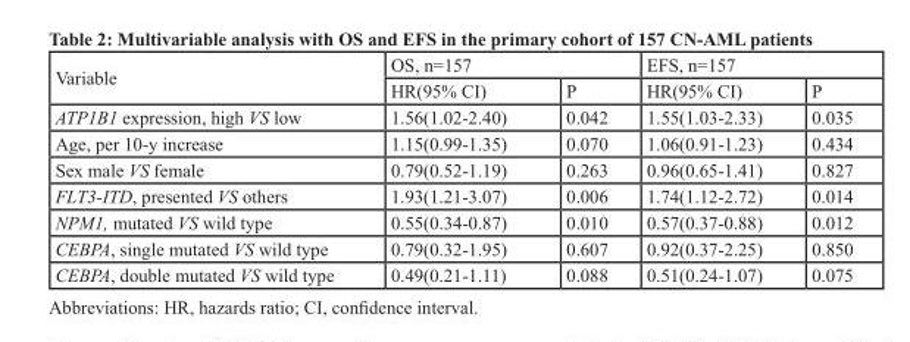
<table><thead><tr><td rowspan="2">Variable</td><td colspan="2">OS, n=157</td><td colspan="2">EFS, n=157</td></tr><tr><td>HR(95% CI)</td><td>P</td><td>HR(95% CI)</td><td>P</td></tr></thead><tbody><tr><td>ATP1B1 expression, high VS low</td><td>1.56(1.02‑2.40)</td><td>0.042</td><td>1.55(1.03‑2.33)</td><td>0.035</td></tr><tr><td>Age, per 10-y increase</td><td>1.15(0.99‑1.35)</td><td>0.070</td><td>1.06(0.91‑1.23)</td><td>0.434</td></tr><tr><td>Sex male VS female</td><td>0.79(0.52‑1.19)</td><td>0.263</td><td>0.96(0.65‑1.41)</td><td>0.827</td></tr><tr><td>FLT3-ITD, presented VS others</td><td>1.93(1.21‑3.07)</td><td>0.006</td><td>1.74(1.12‑2.72)</td><td>0.014</td></tr><tr><td>NPM1, mutated VS wild type</td><td>0.55(0.34‑0.87)</td><td>0.010</td><td>0.57(0.37‑0.88)</td><td>0.012</td></tr><tr><td>CEBPA, single mutated VS wild type</td><td>0.79(0.32‑1.95)</td><td>0.607</td><td>0.92(0.37‑2.25)</td><td>0.850</td></tr><tr><td>CEBPA, double mutated VS wild type</td><td>0.49(0.21‑1.11)</td><td>0.088</td><td>0.51(0.24‑1.07)</td><td>0.075</td></tr></tbody></table>